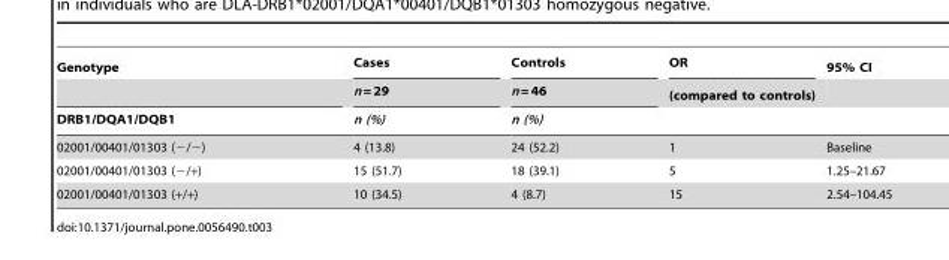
<table><thead><tr><td rowspan="3">Genotype DRB1/DQA1/DQB1</td><td rowspan="3">Cases n = 29 n (%)</td><td rowspan="3">Controls n = 46 n (%)</td><td rowspan="3">OR (compared to controls)</td><td rowspan="3">95% CI</td></tr><tr></tr><tr></tr></thead><tbody><tr><td>02001/00401/01303 (−/−)</td><td>4 (13.8)</td><td>24 (52.2)</td><td>1</td><td>Baseline</td></tr><tr><td>02001/00401/01303 (−/+)</td><td>15 (51.7)</td><td>18 (39.1)</td><td>5</td><td>1.25–21.67</td></tr><tr><td>02001/00401/01303 (+/+)</td><td>10 (34.5)</td><td>4 (8.7)</td><td>15</td><td>2.54–104.45</td></tr></tbody></table>